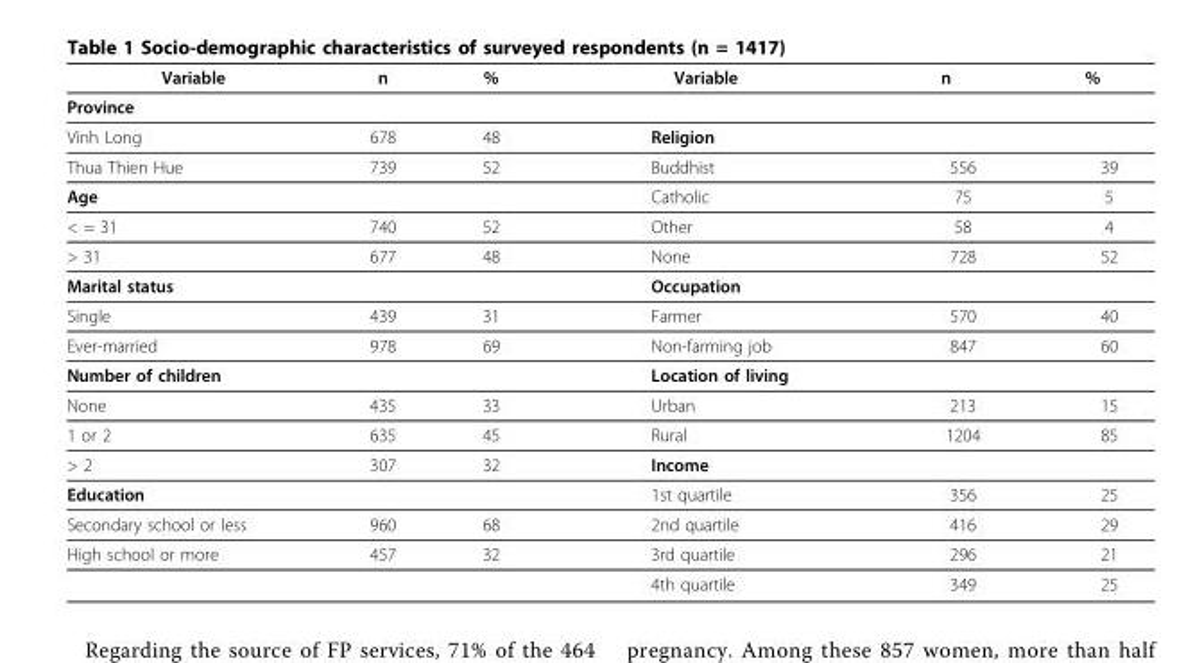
<table><thead><tr><td>Variable</td><td>n</td><td>%</td><td>Variable</td><td>n</td><td>%</td></tr></thead><tbody><tr><td colspan="6">Province</td></tr><tr><td>Vinh Long</td><td>678</td><td>48</td><td>Religion</td><td></td><td></td></tr><tr><td>Thua Thien Hue</td><td>739</td><td>52</td><td>Buddhist</td><td>556</td><td>39</td></tr><tr><td>Age</td><td></td><td></td><td>Catholic</td><td>75</td><td>5</td></tr><tr><td>&lt; = 31</td><td>740</td><td>52</td><td>Other</td><td>58</td><td>4</td></tr><tr><td>&gt; 31</td><td>677</td><td>48</td><td>None</td><td>728</td><td>52</td></tr><tr><td>Marital status</td><td></td><td></td><td>Occupation</td><td></td><td></td></tr><tr><td>Single</td><td>439</td><td>31</td><td>Farmer</td><td>570</td><td>40</td></tr><tr><td>Ever-married</td><td>978</td><td>69</td><td>Non-farming job</td><td>847</td><td>60</td></tr><tr><td>Number of children</td><td></td><td></td><td>Location of living</td><td></td><td></td></tr><tr><td>None</td><td>435</td><td>33</td><td>Urban</td><td>213</td><td>15</td></tr><tr><td>1 or 2</td><td>635</td><td>45</td><td>Rural</td><td>1204</td><td>85</td></tr><tr><td>&gt; 2</td><td>307</td><td>32</td><td>Income</td><td></td><td></td></tr><tr><td>Education</td><td></td><td></td><td>1st quartile</td><td>356</td><td>25</td></tr><tr><td>Secondary school or less</td><td>960</td><td>68</td><td>2nd quartile</td><td>416</td><td>29</td></tr><tr><td rowspan="2">High school or more</td><td>457</td><td>32</td><td>3rd quartile</td><td>296</td><td>21</td></tr><tr><td></td><td></td><td>4th quartile</td><td>349</td><td>25</td></tr></tbody></table>